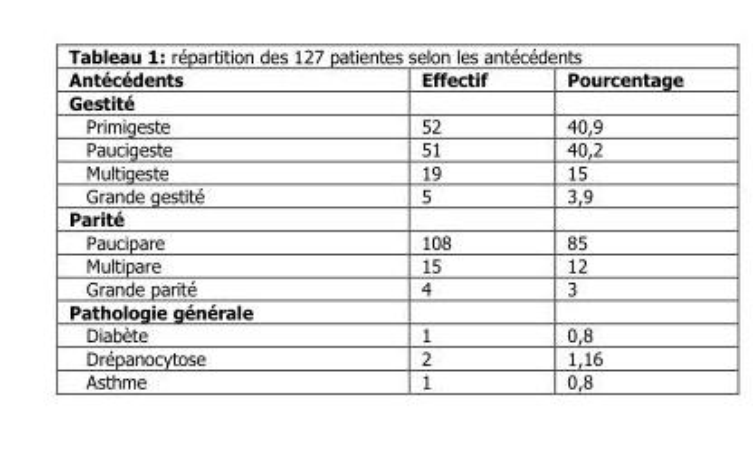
<table><thead><tr><td>Antécédents</td><td>Effectif</td><td>Pourcentage</td></tr></thead><tbody><tr><td colspan="3">Gestité</td></tr><tr><td>Primigeste</td><td>52</td><td>40,9</td></tr><tr><td>Paucigeste</td><td>51</td><td>40,2</td></tr><tr><td>Multigeste</td><td>19</td><td>15</td></tr><tr><td>Grande gestité</td><td>5</td><td>3,9</td></tr><tr><td colspan="3">Parité</td></tr><tr><td>Paucipare</td><td>108</td><td>85</td></tr><tr><td>Multipare</td><td>15</td><td>12</td></tr><tr><td>Grande parité</td><td>4</td><td>3</td></tr><tr><td colspan="3">Pathologie générale</td></tr><tr><td>Diabète</td><td>1</td><td>0,8</td></tr><tr><td>Drépanocytose</td><td>2</td><td>1,16</td></tr><tr><td>Asthme</td><td>1</td><td>0,8</td></tr></tbody></table>